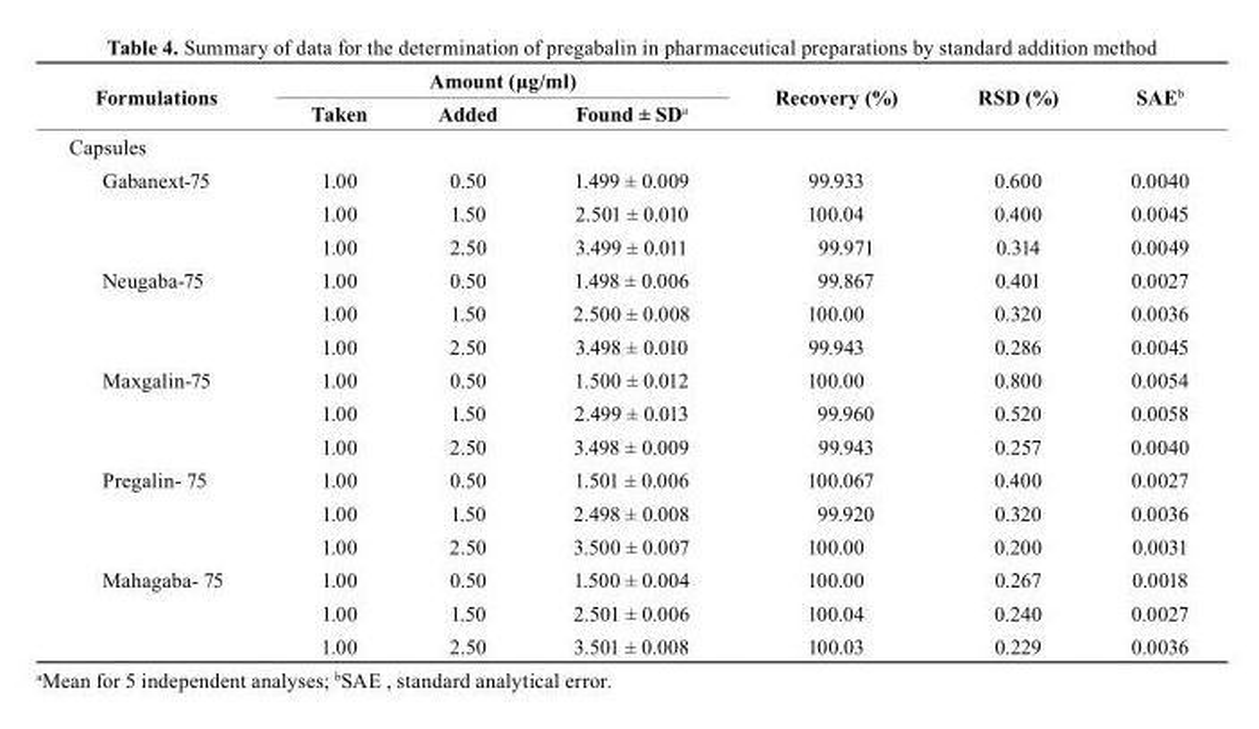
<table><thead><tr><td rowspan="2">Formulations</td><td colspan="3">Amount (µg/ml)</td><td rowspan="2">recovery (%)</td><td rowspan="2">rsD (%)</td><td rowspan="2">sAE<sup>b</sup></td></tr><tr><td>taken</td><td>Added</td><td>Found ± sD<sup>a</sup></td></tr></thead><tbody><tr><td colspan="7">Capsules</td></tr><tr><td rowspan="3">Gabanext-75</td><td>1.00</td><td>0.50</td><td>1.499 ± 0.009</td><td>99.933</td><td>0.600</td><td>0.0040</td></tr><tr><td>1.00</td><td>1.50</td><td>2.501 ± 0.010</td><td>100.04</td><td>0.400</td><td>0.0045</td></tr><tr><td>1.00</td><td>2.50</td><td>3.499 ± 0.011</td><td>99.971</td><td>0.314</td><td>0.0049</td></tr><tr><td rowspan="3">Neugaba-75</td><td>1.00</td><td>0.50</td><td>1.498 ± 0.006</td><td>99.867</td><td>0.401</td><td>0.0027</td></tr><tr><td>1.00</td><td>1.50</td><td>2.500 ± 0.008</td><td>100.00</td><td>0.320</td><td>0.0036</td></tr><tr><td>1.00</td><td>2.50</td><td>3.498 ± 0.010</td><td>99.943</td><td>0.286</td><td>0.0045</td></tr><tr><td rowspan="3">Maxgalin-75</td><td>1.00</td><td>0.50</td><td>1.500 ± 0.012</td><td>100.00</td><td>0.800</td><td>0.0054</td></tr><tr><td>1.00</td><td>1.50</td><td>2.499 ± 0.013</td><td>99.960</td><td>0.520</td><td>0.0058</td></tr><tr><td>1.00</td><td>2.50</td><td>3.498 ± 0.009</td><td>99.943</td><td>0.257</td><td>0.0040</td></tr><tr><td rowspan="3">Pregalin- 75</td><td>1.00</td><td>0.50</td><td>1.501 ± 0.006</td><td>100.067</td><td>0.400</td><td>0.0027</td></tr><tr><td>1.00</td><td>1.50</td><td>2.498 ± 0.008</td><td>99.920</td><td>0.320</td><td>0.0036</td></tr><tr><td>1.00</td><td>2.50</td><td>3.500 ± 0.007</td><td>100.00</td><td>0.200</td><td>0.0031</td></tr><tr><td rowspan="3">Mahagaba- 75</td><td>1.00</td><td>0.50</td><td>1.500 ± 0.004</td><td>100.00</td><td>0.267</td><td>0.0018</td></tr><tr><td>1.00</td><td>1.50</td><td>2.501 ± 0.006</td><td>100.04</td><td>0.240</td><td>0.0027</td></tr><tr><td>1.00</td><td>2.50</td><td>3.501 ± 0.008</td><td>100.03</td><td>0.229</td><td>0.0036</td></tr></tbody></table>